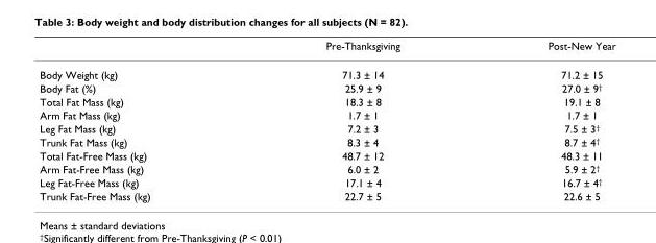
<table><thead><tr><td></td><td>Pre-Thanksgiving</td><td>Post-New Year</td></tr></thead><tbody><tr><td>Body Weight (kg)</td><td>71.3 ± 14</td><td>71.2 ± 15</td></tr><tr><td>Body Fat (%)</td><td>25.9 ± 9</td><td>27.0 ± 9<sup>†</sup></td></tr><tr><td>Total Fat Mass (kg)</td><td>18.3 ± 8</td><td>19.1 ± 8</td></tr><tr><td>Arm Fat Mass (kg)</td><td>1.7 ± 1</td><td>1.7 ± 1</td></tr><tr><td>Leg Fat Mass (kg)</td><td>7.2 ± 3</td><td>7.5 ± 3<sup>†</sup></td></tr><tr><td>Trunk Fat Mass (kg)</td><td>8.3 ± 4</td><td>8.7 ± 4<sup>†</sup></td></tr><tr><td>Total Fat-Free Mass (kg)</td><td>48.7 ± 12</td><td>48.3 ± 11</td></tr><tr><td>Arm Fat-Free Mass (kg)</td><td>6.0 ± 2</td><td>5.9 ± 2<sup>†</sup></td></tr><tr><td>Leg Fat-Free Mass (kg)</td><td>17.1 ± 4</td><td>16.7 ± 4<sup>†</sup></td></tr><tr><td>Trunk Fat-Free Mass (kg)</td><td>22.7 ± 5</td><td>22.6 ± 5</td></tr></tbody></table>